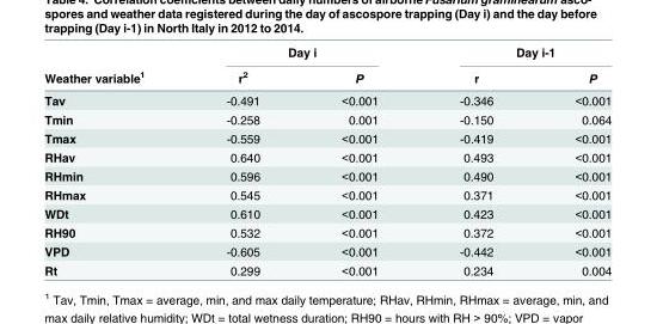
<table><thead><tr><td rowspan="2">Weather variable<sup>1</sup></td><td colspan="2">Day i</td><td colspan="2">Day i-1</td></tr><tr><td>r<sup>2</sup></td><td>P</td><td>r</td><td>P</td></tr></thead><tbody><tr><td>Tav</td><td>-0.491</td><td>&lt;0.001</td><td>-0.346</td><td>&lt;0.001</td></tr><tr><td>Tmin</td><td>-0.258</td><td>0.001</td><td>-0.150</td><td>0.064</td></tr><tr><td>Tmax</td><td>-0.559</td><td>&lt;0.001</td><td>-0.419</td><td>&lt;0.001</td></tr><tr><td>RHav</td><td>0.640</td><td>&lt;0.001</td><td>0.493</td><td>&lt;0.001</td></tr><tr><td>RHmin</td><td>0.596</td><td>&lt;0.001</td><td>0.490</td><td>&lt;0.001</td></tr><tr><td>RHmax</td><td>0.545</td><td>&lt;0.001</td><td>0.371</td><td>&lt;0.001</td></tr><tr><td>WDt</td><td>0.610</td><td>&lt;0.001</td><td>0.423</td><td>&lt;0.001</td></tr><tr><td>RH90</td><td>0.532</td><td>&lt;0.001</td><td>0.372</td><td>&lt;0.001</td></tr><tr><td>VPD</td><td>-0.605</td><td>&lt;0.001</td><td>-0.442</td><td>&lt;0.001</td></tr><tr><td>Rt</td><td>0.299</td><td>&lt;0.001</td><td>0.234</td><td>0.004</td></tr></tbody></table>